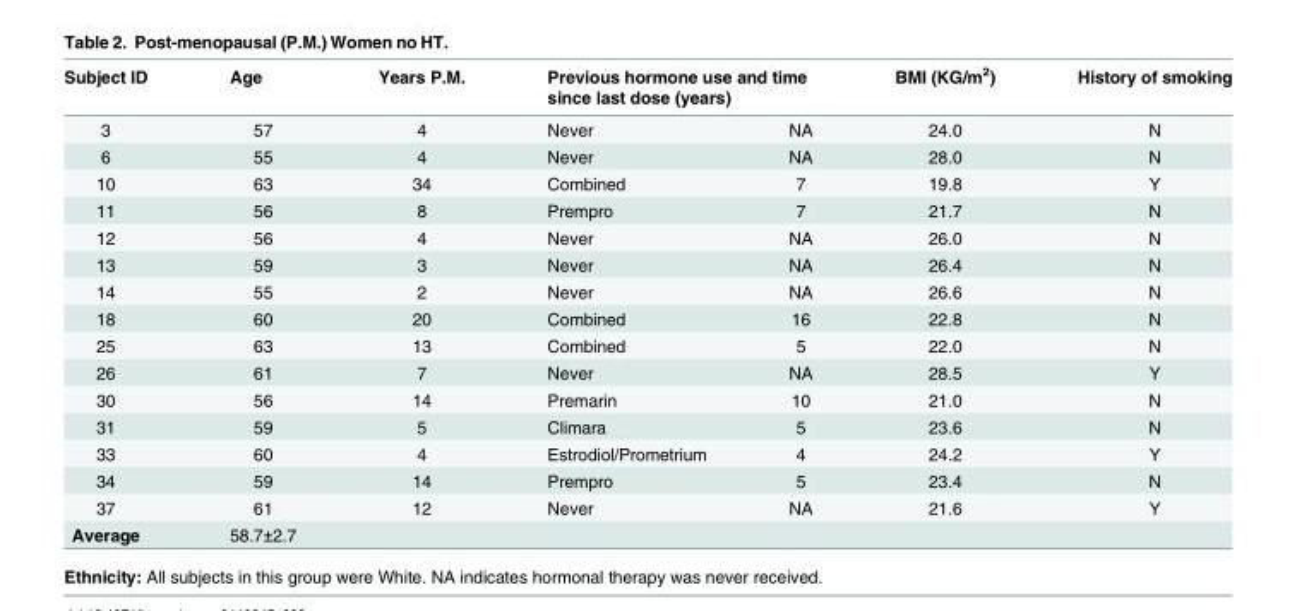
<table><thead><tr><td rowspan="2">Subject ID 3</td><td rowspan="2">Age 57</td><td rowspan="2">Years P.M. 4</td><td colspan="2">Previous hormone use and time since last dose (years)</td><td rowspan="2">BMI (KG/m<sup>2</sup>) 24.0</td><td rowspan="2">History of smoking N</td></tr><tr><td>Never</td><td>NA</td></tr></thead><tbody><tr><td>6</td><td>55</td><td>4</td><td>Never</td><td>NA</td><td>28.0</td><td>N</td></tr><tr><td>10</td><td>63</td><td>34</td><td>Combined</td><td>7</td><td>19.8</td><td>Y</td></tr><tr><td>11</td><td>56</td><td>8</td><td>Prempro</td><td>7</td><td>21.7</td><td>N</td></tr><tr><td>12</td><td>56</td><td>4</td><td>Never</td><td>NA</td><td>26.0</td><td>N</td></tr><tr><td>13</td><td>59</td><td>3</td><td>Never</td><td>NA</td><td>26.4</td><td>N</td></tr><tr><td>14</td><td>55</td><td>2</td><td>Never</td><td>NA</td><td>26.6</td><td>N</td></tr><tr><td>18</td><td>60</td><td>20</td><td>Combined</td><td>16</td><td>22.8</td><td>N</td></tr><tr><td>25</td><td>63</td><td>13</td><td>Combined</td><td>5</td><td>22.0</td><td>N</td></tr><tr><td>26</td><td>61</td><td>7</td><td>Never</td><td>NA</td><td>28.5</td><td>Y</td></tr><tr><td>30</td><td>56</td><td>14</td><td>Premarin</td><td>10</td><td>21.0</td><td>N</td></tr><tr><td>31</td><td>59</td><td>5</td><td>Climara</td><td>5</td><td>23.6</td><td>N</td></tr><tr><td>33</td><td>60</td><td>4</td><td>Estrodiol/Prometrium</td><td>4</td><td>24.2</td><td>Y</td></tr><tr><td>34</td><td>59</td><td>14</td><td>Prempro</td><td>5</td><td>23.4</td><td>N</td></tr><tr><td>37</td><td>61</td><td>12</td><td>Never</td><td>NA</td><td>21.6</td><td>Y</td></tr><tr><td>Average</td><td>58.7±2.7</td><td colspan="5"></td></tr></tbody></table>